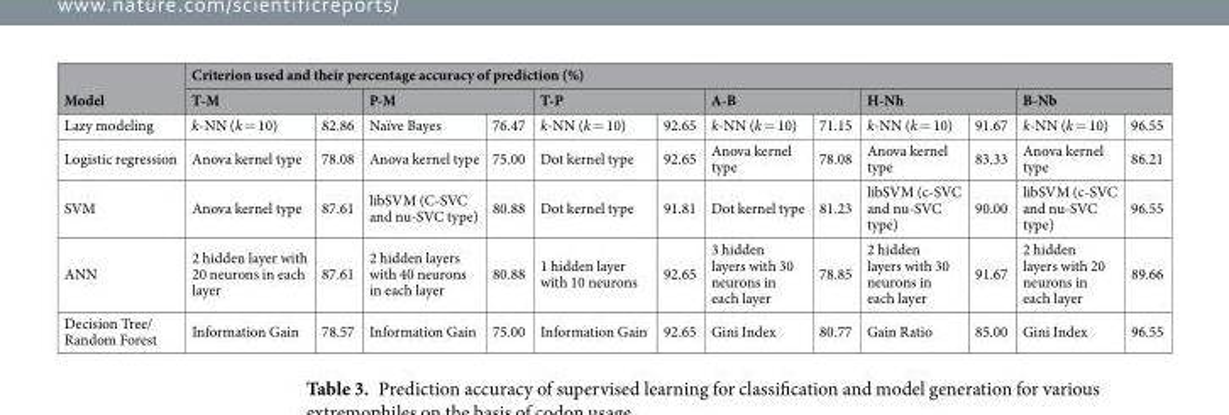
<table><thead><tr><td rowspan="3">Model Lazy modeling</td><td colspan="12">Criterion used and their percentage accuracy of prediction (%)</td></tr><tr><td colspan="2">T-M</td><td colspan="2">P-M</td><td colspan="2">T-P</td><td colspan="2">A-B</td><td colspan="2">H-Nh</td><td colspan="2">B-Nb</td></tr><tr><td>k-NN (k = 10)</td><td>82.86</td><td>Naïve Bayes</td><td>76.47</td><td>k-NN (k = 10)</td><td>92.65</td><td>k-NN (k = 10)</td><td>71.15</td><td>k-NN (k = 10)</td><td>91.67</td><td>k-NN (k = 10)</td><td>96.55</td></tr></thead><tbody><tr><td>Logistic regression</td><td>Anova kernel type</td><td>78.08</td><td>Anova kernel type</td><td>75.00</td><td>Dot kernel type</td><td>92.65</td><td>Anova kernel type</td><td>78.08</td><td>Anova kernel type</td><td>83.33</td><td>Anova kernel type</td><td>86.21</td></tr><tr><td>SVM</td><td>Anova kernel type</td><td>87.61</td><td>libSVM (C-SVC and nu-SVC type)</td><td>80.88</td><td>Dot kernel type</td><td>91.81</td><td>Dot kernel type</td><td>81.23</td><td>libSVM (c-SVC and nu-SVC type)</td><td>90.00</td><td>libSVM (c-SVC and nu-SVC type)</td><td>96.55</td></tr><tr><td>ANN</td><td>2 hidden layer with 20 neurons in each layer</td><td>87.61</td><td>2 hidden layers with 40 neurons in each layer</td><td>80.88</td><td>1 hidden layer with 10 neurons</td><td>92.65</td><td>3 hidden layers with 30 neurons in each layer</td><td>78.85</td><td>2 hidden layers with 30 neurons in each layer</td><td>91.67</td><td>2 hidden layers with 20 neurons in each layer</td><td>89.66</td></tr><tr><td>Decision Tree/ Random Forest</td><td>Information Gain</td><td>78.57</td><td>Information Gain</td><td>75.00</td><td>Information Gain</td><td>92.65</td><td>Gini Index</td><td>80.77</td><td>Gain Ratio</td><td>85.00</td><td>Gini Index</td><td>96.55</td></tr></tbody></table>